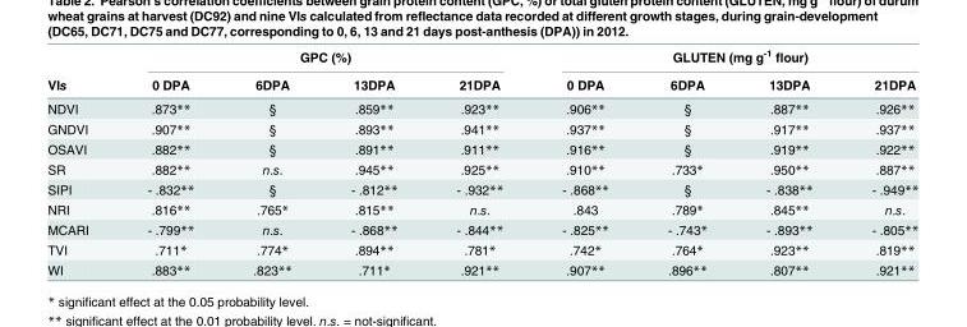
<table><thead><tr><td rowspan="2">VIs</td><td colspan="4">GPC (%)</td><td colspan="4">GLUTEN (mg g<sup>-1</sup> flour)</td></tr><tr><td>0 DPA</td><td>6DPA</td><td>13DPA</td><td>21DPA</td><td>0 DPA</td><td>6DPA</td><td>13DPA</td><td>21DPA</td></tr></thead><tbody><tr><td>NDVI</td><td>.873**</td><td>§</td><td>.859**</td><td>.923**</td><td>.906**</td><td>§</td><td>.887**</td><td>.926**</td></tr><tr><td>GNDVI</td><td>.907**</td><td>§</td><td>.893**</td><td>.941**</td><td>.937**</td><td>§</td><td>.917**</td><td>.937**</td></tr><tr><td>OSAVI</td><td>.882**</td><td>§</td><td>.891**</td><td>.911**</td><td>.916**</td><td>§</td><td>.919**</td><td>.922**</td></tr><tr><td>SR</td><td>.882**</td><td>n.s.</td><td>.945**</td><td>.925**</td><td>.910**</td><td>.733*</td><td>.950**</td><td>.887**</td></tr><tr><td>SIPI</td><td>- .832**</td><td>§</td><td>- .812**</td><td>- .932**</td><td>- .868**</td><td>§</td><td>- .838**</td><td>- .949**</td></tr><tr><td>NRI</td><td>.816**</td><td>.765*</td><td>.815**</td><td>n.s.</td><td>.843</td><td>.789*</td><td>.845**</td><td>n.s.</td></tr><tr><td>MCARI</td><td>- .799**</td><td>n.s.</td><td>- .868**</td><td>- .844**</td><td>- .825**</td><td>- .743*</td><td>- .893**</td><td>- .805**</td></tr><tr><td>TVI</td><td>.711*</td><td>.774*</td><td>.894**</td><td>.781*</td><td>.742*</td><td>.764*</td><td>.923**</td><td>.819**</td></tr><tr><td>WI</td><td>.883**</td><td>.823**</td><td>.711*</td><td>.921**</td><td>.907**</td><td>.896**</td><td>.807**</td><td>.921**</td></tr></tbody></table>